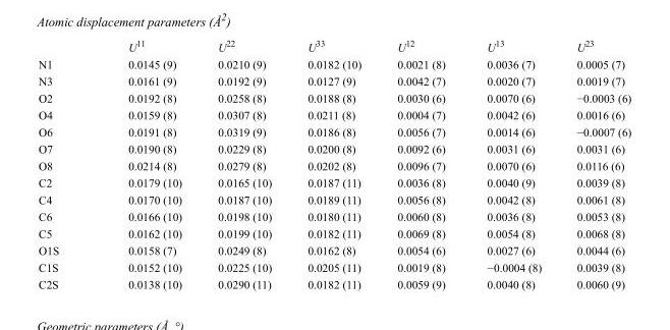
<table><thead><tr><td></td><td>U<sup>11</sup></td><td>U<sup>22</sup></td><td>U<sup>33</sup></td><td>U<sup>12</sup></td><td>U<sup>13</sup></td><td>U<sup>23</sup></td></tr></thead><tbody><tr><td>N1</td><td>0.0145 (9)</td><td>0.0210 (9)</td><td>0.0182 (10)</td><td>0.0021 (8)</td><td>0.0036 (7)</td><td>0.0005 (7)</td></tr><tr><td>N3</td><td>0.0161 (9)</td><td>0.0192 (9)</td><td>0.0127 (9)</td><td>0.0042 (7)</td><td>0.0020 (7)</td><td>0.0019 (7)</td></tr><tr><td>O2</td><td>0.0192 (8)</td><td>0.0258 (8)</td><td>0.0188 (8)</td><td>0.0030 (6)</td><td>0.0070 (6)</td><td>−0.0003 (6)</td></tr><tr><td>O4</td><td>0.0159 (8)</td><td>0.0307 (8)</td><td>0.0211 (8)</td><td>0.0004 (7)</td><td>0.0042 (6)</td><td>0.0016 (6)</td></tr><tr><td>O6</td><td>0.0191 (8)</td><td>0.0319 (9)</td><td>0.0186 (8)</td><td>0.0056 (7)</td><td>0.0014 (6)</td><td>−0.0007 (6)</td></tr><tr><td>O7</td><td>0.0190 (8)</td><td>0.0229 (8)</td><td>0.0200 (8)</td><td>0.0092 (6)</td><td>0.0031 (6)</td><td>0.0031 (6)</td></tr><tr><td>O8</td><td>0.0214 (8)</td><td>0.0279 (8)</td><td>0.0202 (8)</td><td>0.0096 (7)</td><td>0.0070 (6)</td><td>0.0116 (6)</td></tr><tr><td>C2</td><td>0.0179 (10)</td><td>0.0165 (10)</td><td>0.0187 (11)</td><td>0.0036 (8)</td><td>0.0040 (9)</td><td>0.0039 (8)</td></tr><tr><td>C4</td><td>0.0170 (10)</td><td>0.0187 (10)</td><td>0.0189 (11)</td><td>0.0056 (8)</td><td>0.0042 (8)</td><td>0.0061 (8)</td></tr><tr><td>C6</td><td>0.0166 (10)</td><td>0.0198 (10)</td><td>0.0180 (11)</td><td>0.0060 (8)</td><td>0.0036 (8)</td><td>0.0053 (8)</td></tr><tr><td>C5</td><td>0.0162 (10)</td><td>0.0199 (10)</td><td>0.0182 (11)</td><td>0.0069 (8)</td><td>0.0054 (8)</td><td>0.0068 (8)</td></tr><tr><td>O1S</td><td>0.0158 (7)</td><td>0.0249 (8)</td><td>0.0162 (8)</td><td>0.0054 (6)</td><td>0.0027 (6)</td><td>0.0044 (6)</td></tr><tr><td>C1S</td><td>0.0152 (10)</td><td>0.0225 (10)</td><td>0.0205 (11)</td><td>0.0019 (8)</td><td>−0.0004 (8)</td><td>0.0039 (8)</td></tr><tr><td>C2S</td><td>0.0138 (10)</td><td>0.0290 (11)</td><td>0.0182 (11)</td><td>0.0059 (9)</td><td>0.0040 (8)</td><td>0.0060 (9)</td></tr></tbody></table>